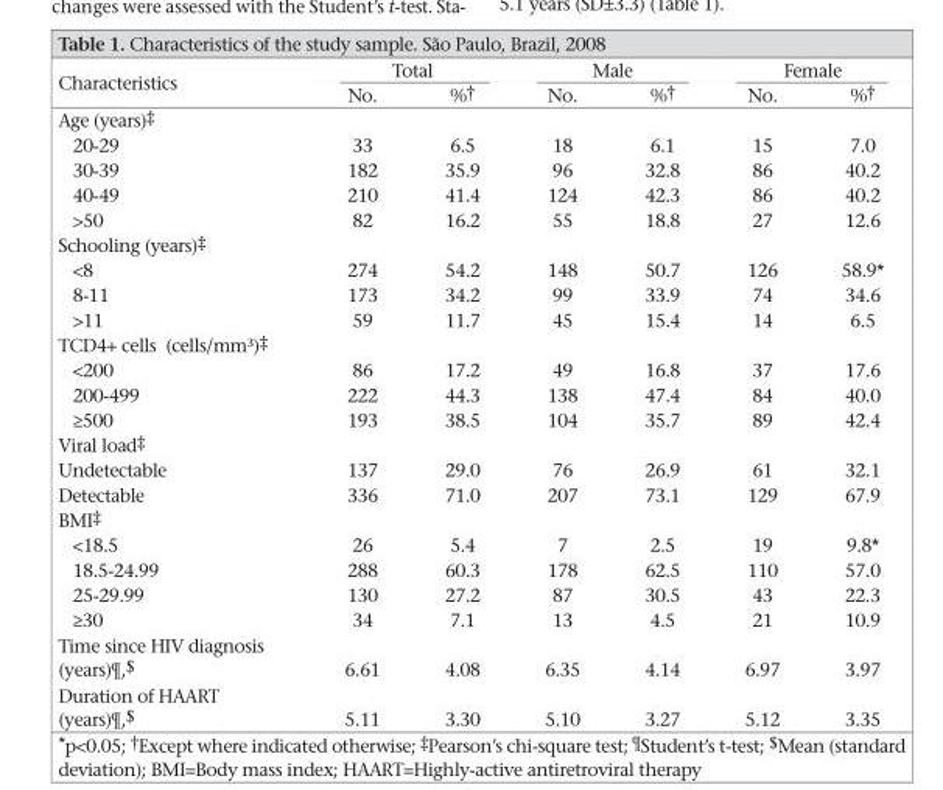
<table><thead><tr><td rowspan="2">Characteristics</td><td colspan="2">Total</td><td colspan="2">Male</td><td colspan="2">Female</td></tr><tr><td>No.</td><td>%†</td><td>No.</td><td>%†</td><td>No.</td><td>%†</td></tr></thead><tbody><tr><td colspan="7">Age (years)‡</td></tr><tr><td>20-29</td><td>33</td><td>6.5</td><td>18</td><td>6.1</td><td>15</td><td>7.0</td></tr><tr><td>30-39</td><td>182</td><td>35.9</td><td>96</td><td>32.8</td><td>86</td><td>40.2</td></tr><tr><td>40-49</td><td>210</td><td>41.4</td><td>124</td><td>42.3</td><td>86</td><td>40.2</td></tr><tr><td>&gt;50</td><td>82</td><td>16.2</td><td>55</td><td>18.8</td><td>27</td><td>12.6</td></tr><tr><td colspan="7">Schooling (years)‡</td></tr><tr><td>&lt;8</td><td>274</td><td>54.2</td><td>148</td><td>50.7</td><td>126</td><td>58.9*</td></tr><tr><td>8-11</td><td>173</td><td>34.2</td><td>99</td><td>33.9</td><td>74</td><td>34.6</td></tr><tr><td>&gt;11</td><td>59</td><td>11.7</td><td>45</td><td>15.4</td><td>14</td><td>6.5</td></tr><tr><td colspan="7">TCD4+ cells (cells/mm³)‡</td></tr><tr><td>&lt;200</td><td>86</td><td>17.2</td><td>49</td><td>16.8</td><td>37</td><td>17.6</td></tr><tr><td>200-499</td><td>222</td><td>44.3</td><td>138</td><td>47.4</td><td>84</td><td>40.0</td></tr><tr><td>≥500</td><td>193</td><td>38.5</td><td>104</td><td>35.7</td><td>89</td><td>42.4</td></tr><tr><td colspan="7">Viral load‡</td></tr><tr><td>Undetectable</td><td>137</td><td>29.0</td><td>76</td><td>26.9</td><td>61</td><td>32.1</td></tr><tr><td>Detectable</td><td>336</td><td>71.0</td><td>207</td><td>73.1</td><td>129</td><td>67.9</td></tr><tr><td colspan="7">BMI‡</td></tr><tr><td>&lt;18.5</td><td>26</td><td>5.4</td><td>7</td><td>2.5</td><td>19</td><td>9.8*</td></tr><tr><td>18.5-24.99</td><td>288</td><td>60.3</td><td>178</td><td>62.5</td><td>110</td><td>57.0</td></tr><tr><td>25-29.99</td><td>130</td><td>27.2</td><td>87</td><td>30.5</td><td>43</td><td>22.3</td></tr><tr><td>≥30</td><td>34</td><td>7.1</td><td>13</td><td>4.5</td><td>21</td><td>10.9</td></tr><tr><td>Time since HIV diagnosis (years)¶,$</td><td>6.61</td><td>4.08</td><td>6.35</td><td>4.14</td><td>6.97</td><td>3.97</td></tr><tr><td>Duration of HAART (years)¶,$</td><td>5.11</td><td>3.30</td><td>5.10</td><td>3.27</td><td>5.12</td><td>3.35</td></tr></tbody></table>